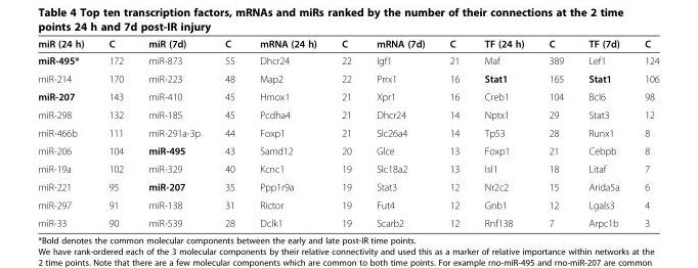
<table><thead><tr><td>miR (24 h)</td><td>C</td><td>miR (7d)</td><td>C</td><td>mRNA (24 h)</td><td>C</td><td>mRNA (7d)</td><td>C</td><td>TF (24 h)</td><td>C</td><td>TF (7d)</td><td>C</td></tr></thead><tbody><tr><td>miR-495*</td><td>172</td><td>miR-873</td><td>55</td><td>Dhcr24</td><td>22</td><td>Igf1</td><td>21</td><td>Maf</td><td>389</td><td>Lef1</td><td>124</td></tr><tr><td>miR-214</td><td>170</td><td>miR-223</td><td>48</td><td>Map2</td><td>22</td><td>Prrx1</td><td>16</td><td>Stat1</td><td>165</td><td>Stat1</td><td>106</td></tr><tr><td>miR-207</td><td>143</td><td>miR-410</td><td>45</td><td>Hmox1</td><td>21</td><td>Xpr1</td><td>16</td><td>Creb1</td><td>104</td><td>Bcl6</td><td>98</td></tr><tr><td>miR-298</td><td>132</td><td>miR-185</td><td>45</td><td>Pcdha4</td><td>21</td><td>Dhcr24</td><td>14</td><td>Nptx1</td><td>29</td><td>Stat3</td><td>12</td></tr><tr><td>miR-466b</td><td>111</td><td>miR-291a-3p</td><td>44</td><td>Foxp1</td><td>21</td><td>Slc26a4</td><td>14</td><td>Tp53</td><td>28</td><td>Runx1</td><td>8</td></tr><tr><td>miR-206</td><td>104</td><td>miR-495</td><td>43</td><td>Samd12</td><td>20</td><td>Glce</td><td>13</td><td>Foxp1</td><td>21</td><td>Cebpb</td><td>8</td></tr><tr><td>miR-19a</td><td>102</td><td>miR-329</td><td>40</td><td>Kcnc1</td><td>19</td><td>Slc18a2</td><td>13</td><td>Isl1</td><td>18</td><td>Litaf</td><td>7</td></tr><tr><td>miR-221</td><td>95</td><td>miR-207</td><td>35</td><td>Ppp1r9a</td><td>19</td><td>Stat3</td><td>12</td><td>Nr2c2</td><td>15</td><td>Arida5a</td><td>6</td></tr><tr><td>miR-297</td><td>91</td><td>miR-138</td><td>31</td><td>Rictor</td><td>19</td><td>Fut4</td><td>12</td><td>Gnb1</td><td>12</td><td>Lgals3</td><td>4</td></tr><tr><td>miR-33</td><td>90</td><td>miR-539</td><td>28</td><td>Dclk1</td><td>19</td><td>Scarb2</td><td>12</td><td>Rnf138</td><td>7</td><td>Arpc1b</td><td>3</td></tr></tbody></table>